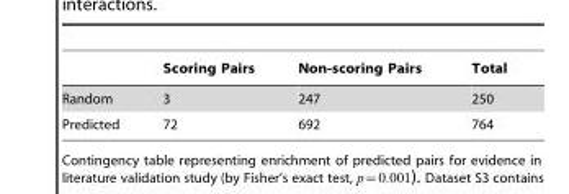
<table><thead><tr><td></td><td>Scoring Pairs</td><td>Non-scoring Pairs</td><td>Total</td></tr></thead><tbody><tr><td>Random</td><td>3</td><td>247</td><td>250</td></tr><tr><td>Predicted</td><td>72</td><td>692</td><td>764</td></tr></tbody></table>